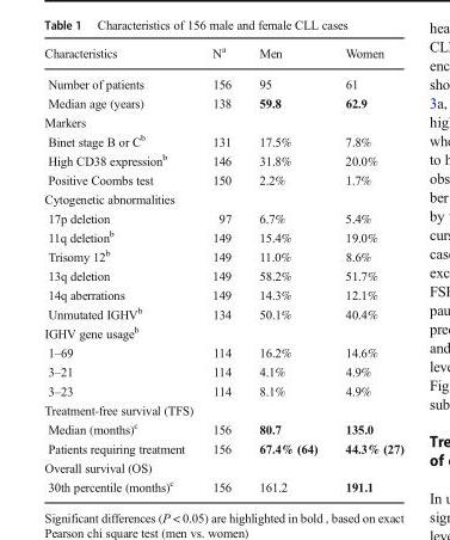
<table><thead><tr><td>Characteristics</td><td>N<sup>a</sup></td><td>Men</td><td>Women</td></tr></thead><tbody><tr><td>Number of patients</td><td>156</td><td>95</td><td>61</td></tr><tr><td>Median age (years)</td><td>138</td><td>59.8</td><td>62.9</td></tr><tr><td colspan="4">Markers</td></tr><tr><td>Binet stage B or C<sup>b</sup></td><td>131</td><td>17.5%</td><td>7.8%</td></tr><tr><td>High CD38 expression<sup>b</sup></td><td>146</td><td>31.8%</td><td>20.0%</td></tr><tr><td>Positive Coombs test</td><td>150</td><td>2.2%</td><td>1.7%</td></tr><tr><td colspan="4">Cytogenetic abnormalities</td></tr><tr><td>17p deletion</td><td>97</td><td>6.7%</td><td>5.4%</td></tr><tr><td>11q deletion<sup>b</sup></td><td>149</td><td>15.4%</td><td>19.0%</td></tr><tr><td>Trisomy 12<sup>b</sup></td><td>149</td><td>11.0%</td><td>8.6%</td></tr><tr><td>13q deletion</td><td>149</td><td>58.2%</td><td>51.7%</td></tr><tr><td>14q aberrations</td><td>149</td><td>14.3%</td><td>12.1%</td></tr><tr><td>Unmutated IGHV<sup>b</sup></td><td>134</td><td>50.1%</td><td>40.4%</td></tr><tr><td colspan="4">IGHV gene usage<sup>b</sup></td></tr><tr><td>1–69</td><td>114</td><td>16.2%</td><td>14.6%</td></tr><tr><td>3–21</td><td>114</td><td>4.1%</td><td>4.9%</td></tr><tr><td>3–23</td><td>114</td><td>8.1%</td><td>4.9%</td></tr><tr><td colspan="4">Treatment-free survival (TFS)</td></tr><tr><td>Median (months)<sup>c</sup></td><td>156</td><td>80.7</td><td>135.0</td></tr><tr><td>Patients requiring treatment</td><td>156</td><td>67.4% (64)</td><td>44.3% (27)</td></tr><tr><td colspan="4">Overall survival (OS)</td></tr><tr><td>30th percentile (months)<sup>c</sup></td><td>156</td><td>161.2</td><td>191.1</td></tr></tbody></table>